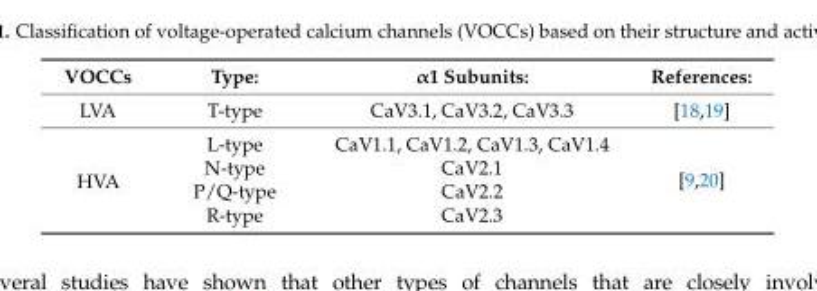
<table><thead><tr><td>VOCCs</td><td>Type:</td><td>α1 Subunits:</td><td>References:</td></tr></thead><tbody><tr><td>LVA</td><td>T-type</td><td>CaV3.1, CaV3.2, CaV3.3</td><td>[18,19]</td></tr><tr><td rowspan="4">HVA</td><td>L-type</td><td>CaV1.1, CaV1.2, CaV1.3, CaV1.4</td><td rowspan="4">[9,20]</td></tr><tr><td>N-type</td><td>CaV2.1</td></tr><tr><td>P/Q-type</td><td>CaV2.2</td></tr><tr><td>R-type</td><td>CaV2.3</td></tr></tbody></table>